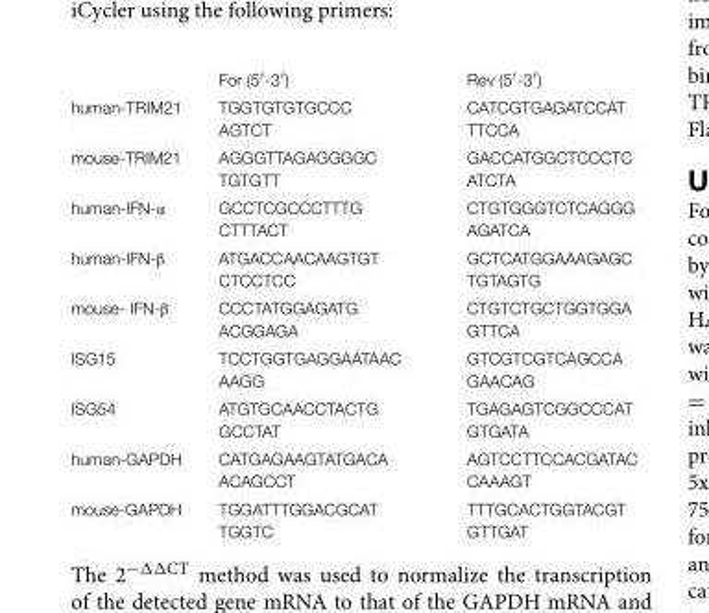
<table><thead><tr><td></td><td>For (5′-3′)</td><td>Rev (5′-3′)</td></tr></thead><tbody><tr><td>human-TRIM21</td><td>TGGTGTGTGCCC AGTCT</td><td>CATCGTGAGATCCAT TTCCA</td></tr><tr><td>mouse-TRIM21</td><td>AGGGTTAGAGGGGC TGTGTT</td><td>GACCATGGCTCCCTC ATCTA</td></tr><tr><td>human-IFN-α</td><td>GCCTCGCCCTTTG CTTTACT</td><td>CTGTGGGTCTCAGGG AGATCA</td></tr><tr><td>human-IFN-β</td><td>ATGACCAACAAGTGT CTCCTCC</td><td>GCTCATGGAAAGAGC TGTAGTG</td></tr><tr><td>mouse- IFN-β</td><td>CCCTATGGAGATG ACGGAGA</td><td>CTGTCTGCTGGTGGA GTTCA</td></tr><tr><td>ISG15</td><td>TCCTGGTGAGGAATAAC AAGG</td><td>GTCGTCGTCAGCCA GAACAG</td></tr><tr><td>ISG54</td><td>ATGTGCAACCTACTG GCCTAT</td><td>TGAGAGTCGGCCCAT GTGATA</td></tr><tr><td>human-GAPDH</td><td>CATGAGAAGTATGACA ACAGCCT</td><td>AGTCCTTCCACGATAC CAAAGT</td></tr><tr><td>mouse-GAPDH</td><td>TGGATTTGGACGCAT TGGTC</td><td>TTTGCACTGGTACGT GTTGAT</td></tr></tbody></table>